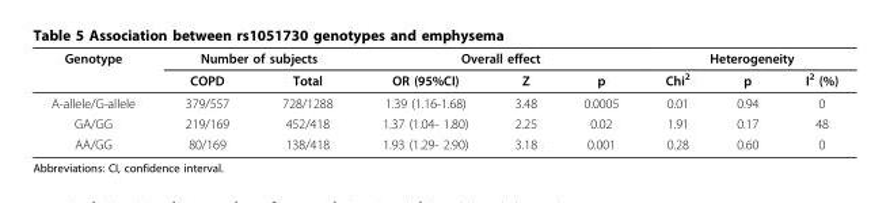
<table><thead><tr><td rowspan="2">Genotype</td><td colspan="2">Number of subjects</td><td colspan="3">Overall effect</td><td colspan="3">Heterogeneity</td></tr><tr><td>COPD</td><td>Total</td><td>OR (95%CI)</td><td>Z</td><td>p</td><td>Chi<sup>2</sup></td><td>p</td><td>I<sup>2</sup> (%)</td></tr></thead><tbody><tr><td>A-allele/G-allele</td><td>379/557</td><td>728/1288</td><td>1.39 (1.16-1.68)</td><td>3.48</td><td>0.0005</td><td>0.01</td><td>0.94</td><td>0</td></tr><tr><td>GA/GG</td><td>219/169</td><td>452/418</td><td>1.37 (1.04- 1.80)</td><td>2.25</td><td>0.02</td><td>1.91</td><td>0.17</td><td>48</td></tr><tr><td>AA/GG</td><td>80/169</td><td>138/418</td><td>1.93 (1.29- 2.90)</td><td>3.18</td><td>0.001</td><td>0.28</td><td>0.60</td><td>0</td></tr></tbody></table>